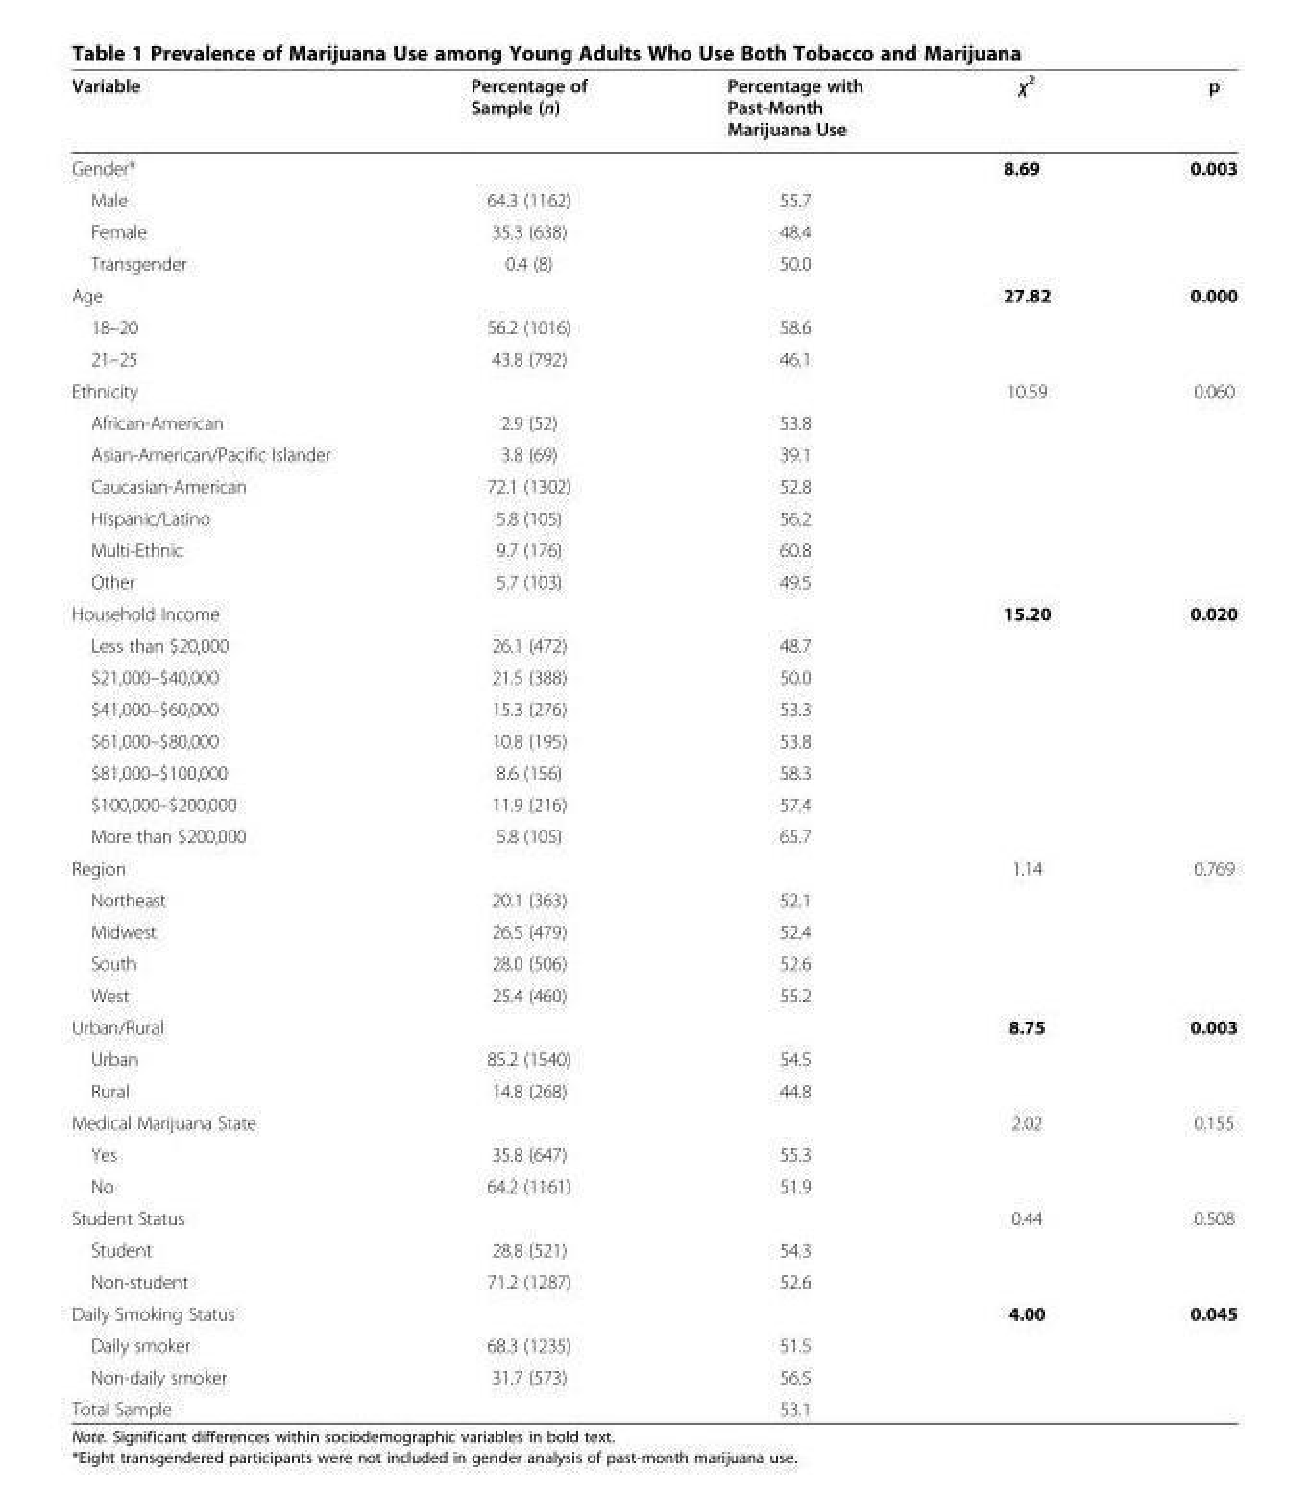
<table><thead><tr><td>Variable</td><td>Percentage of Sample (n)</td><td>Percentage with Past-Month Marijuana Use</td><td>χ<sup>2</sup></td><td>p</td></tr></thead><tbody><tr><td>Gender*</td><td></td><td></td><td>8.69</td><td>0.003</td></tr><tr><td>Male</td><td>64.3 (1162)</td><td>55.7</td><td></td><td></td></tr><tr><td>Female</td><td>35.3 (638)</td><td>48.4</td><td></td><td></td></tr><tr><td>Transgender</td><td>0.4 (8)</td><td>50.0</td><td></td><td></td></tr><tr><td>Age</td><td></td><td></td><td>27.82</td><td>0.000</td></tr><tr><td>18–20</td><td>56.2 (1016)</td><td>58.6</td><td></td><td></td></tr><tr><td>21–25</td><td>43.8 (792)</td><td>46.1</td><td></td><td></td></tr><tr><td>Ethnicity</td><td></td><td></td><td>10.59</td><td>0.060</td></tr><tr><td>African-American</td><td>2.9 (52)</td><td>53.8</td><td></td><td></td></tr><tr><td>Asian-American/Pacific Islander</td><td>3.8 (69)</td><td>39.1</td><td></td><td></td></tr><tr><td>Caucasian-American</td><td>72.1 (1302)</td><td>52.8</td><td></td><td></td></tr><tr><td>Hispanic/Latino</td><td>5.8 (105)</td><td>56.2</td><td></td><td></td></tr><tr><td>Multi-Ethnic</td><td>9.7 (176)</td><td>60.8</td><td></td><td></td></tr><tr><td>Other</td><td>5.7 (103)</td><td>49.5</td><td></td><td></td></tr><tr><td>Household Income</td><td></td><td></td><td>15.20</td><td>0.020</td></tr><tr><td>Less than $20,000</td><td>26.1 (472)</td><td>48.7</td><td></td><td></td></tr><tr><td>$21,000–$40,000</td><td>21.5 (388)</td><td>50.0</td><td></td><td></td></tr><tr><td>$41,000–$60,000</td><td>15.3 (276)</td><td>53.3</td><td></td><td></td></tr><tr><td>$61,000–$80,000</td><td>10.8 (195)</td><td>53.8</td><td></td><td></td></tr><tr><td>$81,000–$100,000</td><td>8.6 (156)</td><td>58.3</td><td></td><td></td></tr><tr><td>$100,000–$200,000</td><td>11.9 (216)</td><td>57.4</td><td></td><td></td></tr><tr><td>More than $200,000</td><td>5.8 (105)</td><td>65.7</td><td></td><td></td></tr><tr><td>Region</td><td></td><td></td><td>1.14</td><td>0.769</td></tr><tr><td>Northeast</td><td>20.1 (363)</td><td>52.1</td><td></td><td></td></tr><tr><td>Midwest</td><td>26.5 (479)</td><td>52.4</td><td></td><td></td></tr><tr><td>South</td><td>28.0 (506)</td><td>52.6</td><td></td><td></td></tr><tr><td>West</td><td>25.4 (460)</td><td>55.2</td><td></td><td></td></tr><tr><td>Urban/Rural</td><td></td><td></td><td>8.75</td><td>0.003</td></tr><tr><td>Urban</td><td>85.2 (1540)</td><td>54.5</td><td></td><td></td></tr><tr><td>Rural</td><td>14.8 (268)</td><td>44.8</td><td></td><td></td></tr><tr><td>Medical Marijuana State</td><td></td><td></td><td>2.02</td><td>0.155</td></tr><tr><td>Yes</td><td>35.8 (647)</td><td>55.3</td><td></td><td></td></tr><tr><td>No</td><td>64.2 (1161)</td><td>51.9</td><td></td><td></td></tr><tr><td>Student Status</td><td></td><td></td><td>0.44</td><td>0.508</td></tr><tr><td>Student</td><td>28.8 (521)</td><td>54.3</td><td></td><td></td></tr><tr><td>Non-student</td><td>71.2 (1287)</td><td>52.6</td><td></td><td></td></tr><tr><td>Daily Smoking Status</td><td></td><td></td><td>4.00</td><td>0.045</td></tr><tr><td>Daily smoker</td><td>68.3 (1235)</td><td>51.5</td><td></td><td></td></tr><tr><td>Non-daily smoker</td><td>31.7 (573)</td><td>56.5</td><td></td><td></td></tr><tr><td>Total Sample</td><td></td><td>53.1</td><td></td><td></td></tr></tbody></table>